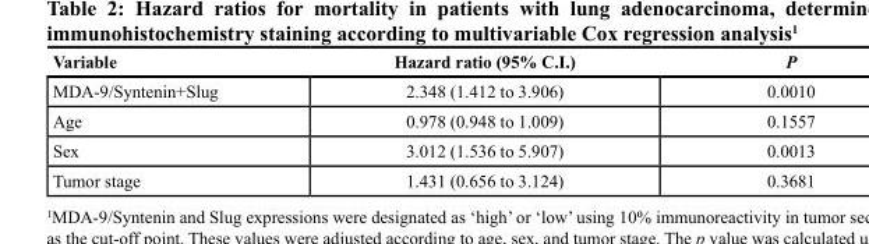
<table><thead><tr><td>Variable</td><td>Hazard ratio (95% C.I.)</td><td>P</td></tr></thead><tbody><tr><td>MDA-9/Syntenin+Slug</td><td>2.348 (1.412 to 3.906)</td><td>0.0010</td></tr><tr><td>Age</td><td>0.978 (0.948 to 1.009)</td><td>0.1557</td></tr><tr><td>Sex</td><td>3.012 (1.536 to 5.907)</td><td>0.0013</td></tr><tr><td>Tumor stage</td><td>1.431 (0.656 to 3.124)</td><td>0.3681</td></tr></tbody></table>